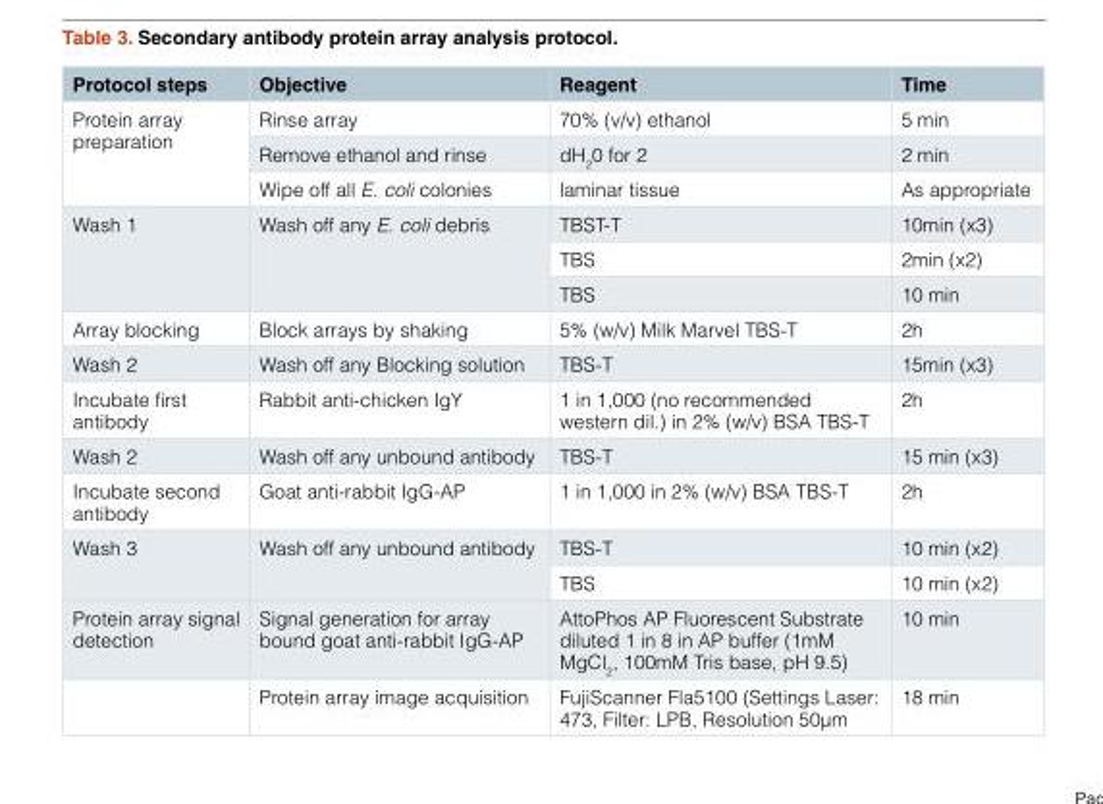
<table><thead><tr><td>Protocol steps</td><td>Objective</td><td>Reagent</td><td>Time</td></tr></thead><tbody><tr><td rowspan="3">Protein array preparation</td><td>Rinse array</td><td>70% (v/v) ethanol</td><td>5 min</td></tr><tr><td>Remove ethanol and rinse</td><td>dH<sub>2</sub>0 for 2</td><td>2 min</td></tr><tr><td>Wipe off all E. coli colonies</td><td>laminar tissue</td><td>As appropriate</td></tr><tr><td rowspan="3">Wash 1</td><td rowspan="3">Wash off any E. coli debris</td><td>TBST-T</td><td>10min (x3)</td></tr><tr><td>TBS</td><td>2min (x2)</td></tr><tr><td>TBS</td><td>10 min</td></tr><tr><td>Array blocking</td><td>Block arrays by shaking</td><td>5% (w/v) Milk Marvel TBS-T</td><td>2h</td></tr><tr><td>Wash 2</td><td>Wash off any Blocking solution</td><td>TBS-T</td><td>15min (x3)</td></tr><tr><td>Incubate first antibody</td><td>Rabbit anti-chicken IgY</td><td>1 in 1,000 (no recommended western dil.) in 2% (w/v) BSA TBS-T</td><td>2h</td></tr><tr><td>Wash 2</td><td>Wash off any unbound antibody</td><td>TBS-T</td><td>15 min (x3)</td></tr><tr><td>Incubate second antibody</td><td>Goat anti-rabbit IgG-AP</td><td>1 in 1,000 in 2% (w/v) BSA TBS-T</td><td>2h</td></tr><tr><td rowspan="2">Wash 3</td><td rowspan="2">Wash off any unbound antibody</td><td>TBS-T</td><td>10 min (x2)</td></tr><tr><td>TBS</td><td>10 min (x2)</td></tr><tr><td rowspan="2">Protein array signal detection</td><td>Signal generation for array bound goat anti-rabbit IgG-AP</td><td>AttoPhos AP Fluorescent Substrate diluted 1 in 8 in AP buffer (1mM MgCl<sub>2</sub>, 100mM Tris base, pH 9.5)</td><td>10 min</td></tr><tr><td>Protein array image acquisition</td><td>FujiScanner Fla5100 (Settings Laser: 473, Filter: LPB, Resolution 50μm</td><td>18 min</td></tr></tbody></table>